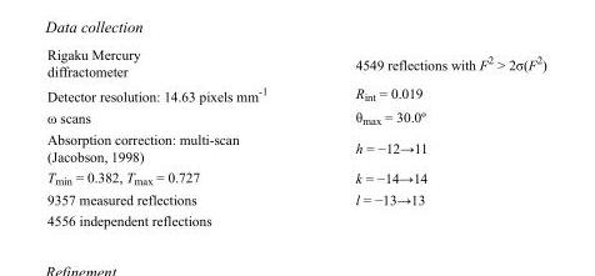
<table><tbody><tr><td>Rigaku Mercury diffractometer</td><td>4549 reflections with F<sup>2</sup> &gt; 2σ(F<sup>2</sup>)</td></tr><tr><td>Detector resolution: 14.63 pixels mm<sup>-1</sup></td><td>R<sub>int</sub> = 0.019</td></tr><tr><td>ω scans</td><td>θ<sub>max</sub> = 30.0º</td></tr><tr><td>Absorption correction: multi-scan (Jacobson, 1998)</td><td>h = −12→11</td></tr><tr><td>T<sub>min</sub> = 0.382, T<sub>max</sub> = 0.727</td><td>k = −14→14</td></tr><tr><td>9357 measured reflections</td><td>l = −13→13</td></tr><tr><td>4556 independent reflections</td><td></td></tr></tbody></table>